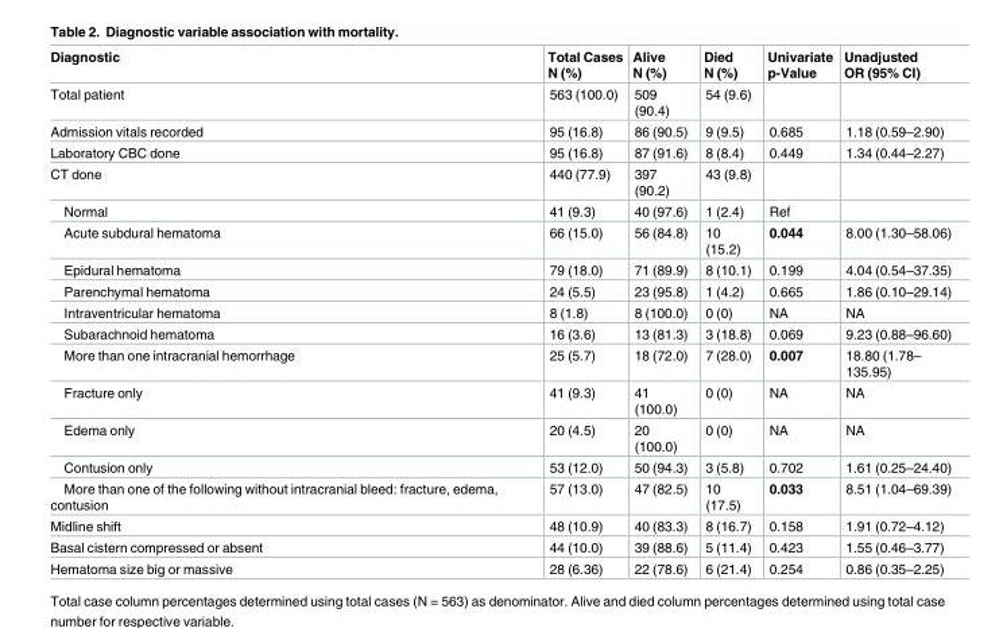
<table><thead><tr><td>Diagnostic</td><td>Total Cases N (%)</td><td>Alive N (%)</td><td>Died N (%)</td><td>Univariate p-Value</td><td>Unadjusted OR (95% CI)</td></tr></thead><tbody><tr><td>Total patient</td><td>563 (100.0)</td><td>509 (90.4)</td><td>54 (9.6)</td><td></td><td></td></tr><tr><td>Admission vitals recorded</td><td>95 (16.8)</td><td>86 (90.5)</td><td>9 (9.5)</td><td>0.685</td><td>1.18 (0.59–2.90)</td></tr><tr><td>Laboratory CBC done</td><td>95 (16.8)</td><td>87 (91.6)</td><td>8 (8.4)</td><td>0.449</td><td>1.34 (0.44–2.27)</td></tr><tr><td>CT done</td><td>440 (77.9)</td><td>397 (90.2)</td><td>43 (9.8)</td><td></td><td></td></tr><tr><td>Normal</td><td>41 (9.3)</td><td>40 (97.6)</td><td>1 (2.4)</td><td>Ref</td><td></td></tr><tr><td>Acute subdural hematoma</td><td>66 (15.0)</td><td>56 (84.8)</td><td>10 (15.2)</td><td>0.044</td><td>8.00 (1.30–58.06)</td></tr><tr><td>Epidural hematoma</td><td>79 (18.0)</td><td>71 (89.9)</td><td>8 (10.1)</td><td>0.199</td><td>4.04 (0.54–37.35)</td></tr><tr><td>Parenchymal hematoma</td><td>24 (5.5)</td><td>23 (95.8)</td><td>1 (4.2)</td><td>0.665</td><td>1.86 (0.10–29.14)</td></tr><tr><td>Intraventricular hematoma</td><td>8 (1.8)</td><td>8 (100.0)</td><td>0 (0)</td><td>NA</td><td>NA</td></tr><tr><td>Subarachnoid hematoma</td><td>16 (3.6)</td><td>13 (81.3)</td><td>3 (18.8)</td><td>0.069</td><td>9.23 (0.88–96.60)</td></tr><tr><td>More than one intracranial hemorrhage</td><td>25 (5.7)</td><td>18 (72.0)</td><td>7 (28.0)</td><td>0.007</td><td>18.80 (1.78– 135.95)</td></tr><tr><td>Fracture only</td><td>41 (9.3)</td><td>41 (100.0)</td><td>0 (0)</td><td>NA</td><td>NA</td></tr><tr><td>Edema only</td><td>20 (4.5)</td><td>20 (100.0)</td><td>0 (0)</td><td>NA</td><td>NA</td></tr><tr><td>Contusion only</td><td>53 (12.0)</td><td>50 (94.3)</td><td>3 (5.8)</td><td>0.702</td><td>1.61 (0.25–24.40)</td></tr><tr><td>More than one of the following without intracranial bleed: fracture, edema, contusion</td><td>57 (13.0)</td><td>47 (82.5)</td><td>10 (17.5)</td><td>0.033</td><td>8.51 (1.04–69.39)</td></tr><tr><td>Midline shift</td><td>48 (10.9)</td><td>40 (83.3)</td><td>8 (16.7)</td><td>0.158</td><td>1.91 (0.72–4.12)</td></tr><tr><td>Basal cistern compressed or absent</td><td>44 (10.0)</td><td>39 (88.6)</td><td>5 (11.4)</td><td>0.423</td><td>1.55 (0.46–3.77)</td></tr><tr><td>Hematoma size big or massive</td><td>28 (6.36)</td><td>22 (78.6)</td><td>6 (21.4)</td><td>0.254</td><td>0.86 (0.35–2.25)</td></tr></tbody></table>